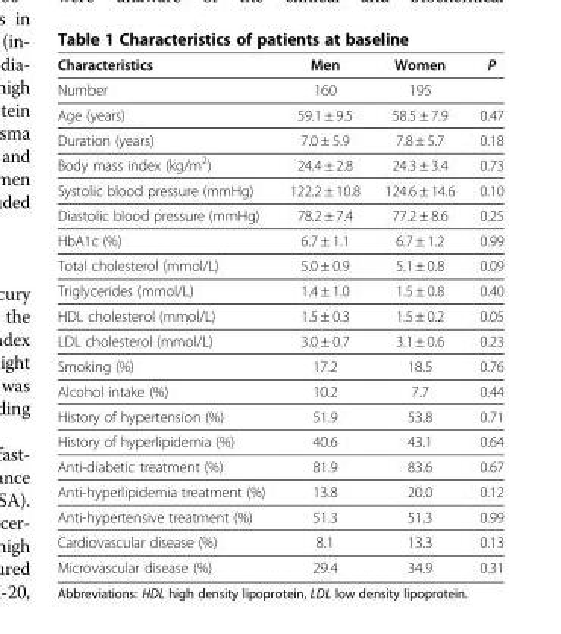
<table><thead><tr><td>Characteristics</td><td>Men</td><td>Women</td><td>P</td></tr></thead><tbody><tr><td>Number</td><td>160</td><td>195</td><td></td></tr><tr><td>Age (years)</td><td>59.1 ± 9.5</td><td>58.5 ± 7.9</td><td>0.47</td></tr><tr><td>Duration (years)</td><td>7.0 ± 5.9</td><td>7.8 ± 5.7</td><td>0.18</td></tr><tr><td>Body mass index (kg/m<sup>2</sup>)</td><td>24.4 ± 2.8</td><td>24.3 ± 3.4</td><td>0.73</td></tr><tr><td>Systolic blood pressure (mmHg)</td><td>122.2 ± 10.8</td><td>124.6 ± 14.6</td><td>0.10</td></tr><tr><td>Diastolic blood pressure (mmHg)</td><td>78.2 ± 7.4</td><td>77.2 ± 8.6</td><td>0.25</td></tr><tr><td>HbA1c (%)</td><td>6.7 ± 1.1</td><td>6.7 ± 1.2</td><td>0.99</td></tr><tr><td>Total cholesterol (mmol/L)</td><td>5.0 ± 0.9</td><td>5.1 ± 0.8</td><td>0.09</td></tr><tr><td>Triglycerides (mmol/L)</td><td>1.4 ± 1.0</td><td>1.5 ± 0.8</td><td>0.40</td></tr><tr><td>HDL cholesterol (mmol/L)</td><td>1.5 ± 0.3</td><td>1.5 ± 0.2</td><td>0.05</td></tr><tr><td>LDL cholesterol (mmol/L)</td><td>3.0 ± 0.7</td><td>3.1 ± 0.6</td><td>0.23</td></tr><tr><td>Smoking (%)</td><td>17.2</td><td>18.5</td><td>0.76</td></tr><tr><td>Alcohol intake (%)</td><td>10.2</td><td>7.7</td><td>0.44</td></tr><tr><td>History of hypertension (%)</td><td>51.9</td><td>53.8</td><td>0.71</td></tr><tr><td>History of hyperlipidemia (%)</td><td>40.6</td><td>43.1</td><td>0.64</td></tr><tr><td>Anti-diabetic treatment (%)</td><td>81.9</td><td>83.6</td><td>0.67</td></tr><tr><td>Anti-hyperlipidemia treatment (%)</td><td>13.8</td><td>20.0</td><td>0.12</td></tr><tr><td>Anti-hypertensive treatment (%)</td><td>51.3</td><td>51.3</td><td>0.99</td></tr><tr><td>Cardiovascular disease (%)</td><td>8.1</td><td>13.3</td><td>0.13</td></tr><tr><td>Microvascular disease (%)</td><td>29.4</td><td>34.9</td><td>0.31</td></tr></tbody></table>